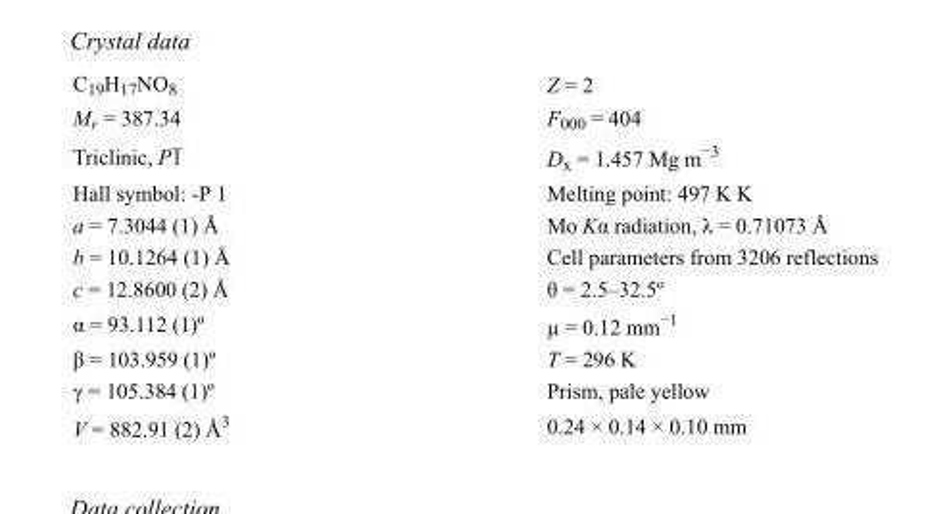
<table><tbody><tr><td>C<sub>19</sub>H<sub>17</sub>NO<sub>8</sub></td><td>Z = 2</td></tr><tr><td>M<sub>r</sub> = 387.34</td><td>F000 = 404</td></tr><tr><td>Triclinic, P1</td><td>D<sub>x</sub> = 1.457 Mg m<sup>−3</sup></td></tr><tr><td>Hall symbol: -P 1</td><td>Melting point: 497 K K</td></tr><tr><td>a = 7.3044 (1) Å</td><td>Mo Kα radiation, λ = 0.71073 Å</td></tr><tr><td>b = 10.1264 (1) Å</td><td>Cell parameters from 3206 reflections</td></tr><tr><td>c = 12.8600 (2) Å</td><td>θ = 2.5–32.5º</td></tr><tr><td>α = 93.112 (1)º</td><td>µ = 0.12 mm<sup>−1</sup></td></tr><tr><td>β = 103.959 (1)º</td><td>T = 296 K</td></tr><tr><td>γ = 105.384 (1)º</td><td>Prism, pale yellow</td></tr><tr><td>V = 882.91 (2) Å<sup>3</sup></td><td>0.24 × 0.14 × 0.10 mm</td></tr></tbody></table>